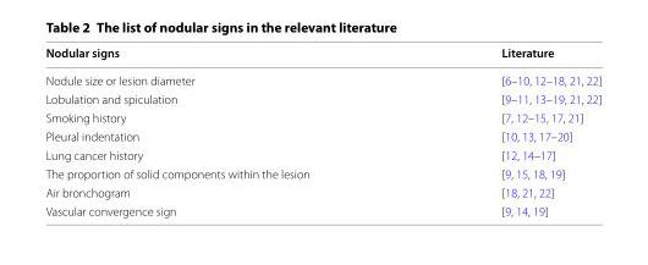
<table><thead><tr><td>Nodular signs</td><td>Literature</td></tr></thead><tbody><tr><td>Nodule size or lesion diameter</td><td>[6–10, 12–18, 21, 22]</td></tr><tr><td>Lobulation and spiculation</td><td>[9–11, 13–19, 21, 22]</td></tr><tr><td>Smoking history</td><td>[7, 12–15, 17, 21]</td></tr><tr><td>Pleural indentation</td><td>[10, 13, 17–20]</td></tr><tr><td>Lung cancer history</td><td>[12, 14–17]</td></tr><tr><td>The proportion of solid components within the lesion</td><td>[9, 15, 18, 19]</td></tr><tr><td>Air bronchogram</td><td>[18, 21, 22]</td></tr><tr><td>Vascular convergence sign</td><td>[9, 14, 19]</td></tr></tbody></table>